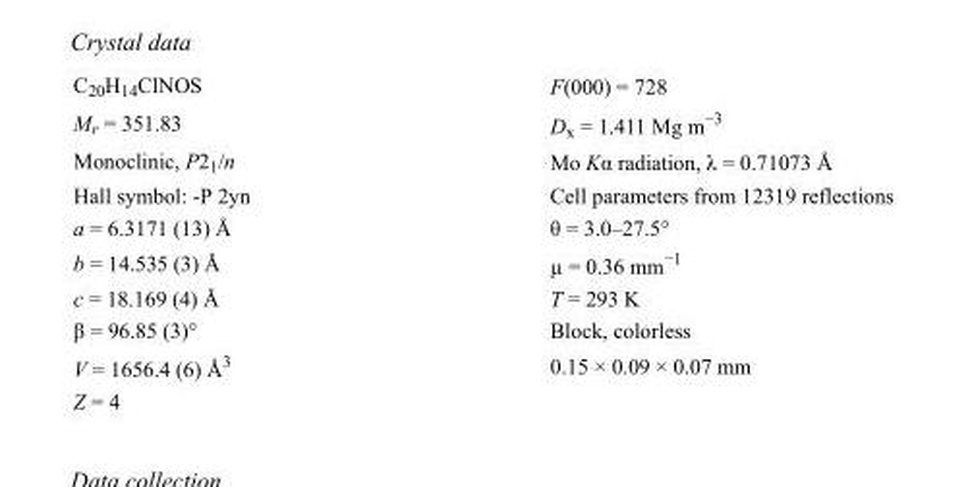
<table><tbody><tr><td>C<sub>20</sub>H<sub>14</sub>ClNOS</td><td>F(000) = 728</td></tr><tr><td>M<sub>r</sub> = 351.83</td><td>D<sub>x</sub> = 1.411 Mg m<sup>−3</sup></td></tr><tr><td>Monoclinic, P2<sub>1</sub>/n</td><td>Mo Kα radiation, λ = 0.71073 Å</td></tr><tr><td>Hall symbol: -P 2yn</td><td>Cell parameters from 12319 reflections</td></tr><tr><td>a = 6.3171 (13) Å</td><td>θ = 3.0–27.5°</td></tr><tr><td>b = 14.535 (3) Å</td><td>µ = 0.36 mm<sup>−1</sup></td></tr><tr><td>c = 18.169 (4) Å</td><td>T = 293 K</td></tr><tr><td>β = 96.85 (3)°</td><td>Block, colorless</td></tr><tr><td>V = 1656.4 (6) Å<sup>3</sup></td><td>0.15 × 0.09 × 0.07 mm</td></tr><tr><td>Z = 4</td><td></td></tr></tbody></table>